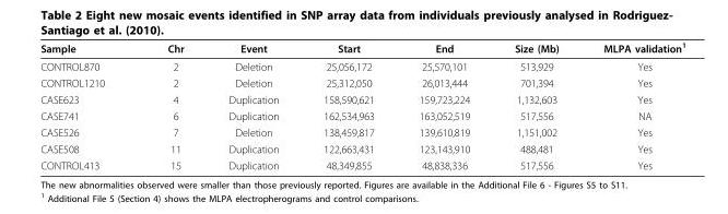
<table><thead><tr><td>Sample</td><td>Chr</td><td>Event</td><td>Start</td><td>End</td><td>Size (Mb)</td><td>MLPA validation<sup>1</sup></td></tr></thead><tbody><tr><td>CONTROL870</td><td>2</td><td>Deletion</td><td>25,056,172</td><td>25,570,101</td><td>513,929</td><td>Yes</td></tr><tr><td>CONTROL1210</td><td>2</td><td>Deletion</td><td>25,312,050</td><td>26,013,444</td><td>701,394</td><td>Yes</td></tr><tr><td>CASE623</td><td>4</td><td>Duplication</td><td>158,590,621</td><td>159,723,224</td><td>1,132,603</td><td>Yes</td></tr><tr><td>CASE741</td><td>6</td><td>Duplication</td><td>162,534,963</td><td>163,052,519</td><td>517,556</td><td>NA</td></tr><tr><td>CASE526</td><td>7</td><td>Deletion</td><td>138,459,817</td><td>139,610,819</td><td>1,151,002</td><td>Yes</td></tr><tr><td>CASE508</td><td>11</td><td>Duplication</td><td>122,663,431</td><td>123,143,910</td><td>488,481</td><td>Yes</td></tr><tr><td>CONTROL413</td><td>15</td><td>Duplication</td><td>48,349,855</td><td>48,838,336</td><td>517,556</td><td>Yes</td></tr></tbody></table>